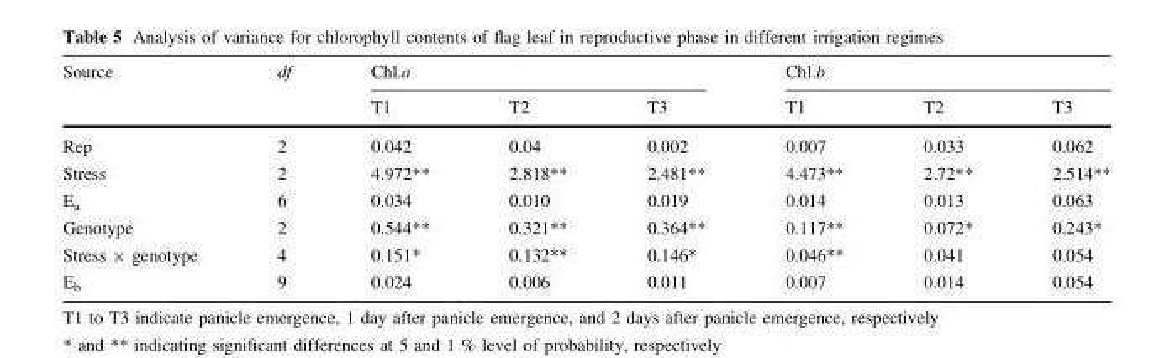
<table><thead><tr><td rowspan="2">Source</td><td rowspan="2">df</td><td colspan="3">Chl.a</td><td colspan="3">Chl.b</td></tr><tr><td>T1</td><td>T2</td><td>T3</td><td>T1</td><td>T2</td><td>T3</td></tr></thead><tbody><tr><td>Rep</td><td>2</td><td>0.042</td><td>0.04</td><td>0.002</td><td>0.007</td><td>0.033</td><td>0.062</td></tr><tr><td>Stress</td><td>2</td><td>4.972**</td><td>2.818**</td><td>2.481**</td><td>4.473**</td><td>2.72**</td><td>2.514**</td></tr><tr><td>E<sub>a</sub></td><td>6</td><td>0.034</td><td>0.010</td><td>0.019</td><td>0.014</td><td>0.013</td><td>0.063</td></tr><tr><td>Genotype</td><td>2</td><td>0.544**</td><td>0.321**</td><td>0.364**</td><td>0.117**</td><td>0.072*</td><td>0.243*</td></tr><tr><td>Stress × genotype</td><td>4</td><td>0.151*</td><td>0.132**</td><td>0.146*</td><td>0.046**</td><td>0.041</td><td>0.054</td></tr><tr><td>E<sub>b</sub></td><td>9</td><td>0.024</td><td>0.006</td><td>0.011</td><td>0.007</td><td>0.014</td><td>0.054</td></tr></tbody></table>